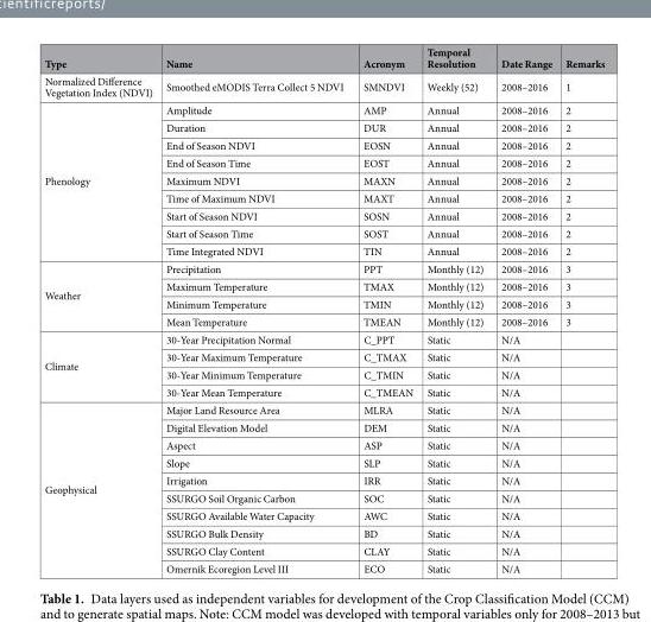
<table><thead><tr><td>Type</td><td>Name</td><td>Acronym</td><td>Temporal Resolution</td><td>Date Range</td><td>Remarks</td></tr></thead><tbody><tr><td>Normalized Difference Vegetation Index (NDVI)</td><td>Smoothed eMODIS Terra Collect 5 NDVI</td><td>SMNDVI</td><td>Weekly (52)</td><td>2008–2016</td><td>1</td></tr><tr><td rowspan="9">Phenology</td><td>Amplitude</td><td>AMP</td><td>Annual</td><td>2008–2016</td><td>2</td></tr><tr><td>Duration</td><td>DUR</td><td>Annual</td><td>2008–2016</td><td>2</td></tr><tr><td>End of Season NDVI</td><td>EOSN</td><td>Annual</td><td>2008–2016</td><td>2</td></tr><tr><td>End of Season Time</td><td>EOST</td><td>Annual</td><td>2008–2016</td><td>2</td></tr><tr><td>Maximum NDVI</td><td>MAXN</td><td>Annual</td><td>2008–2016</td><td>2</td></tr><tr><td>Time of Maximum NDVI</td><td>MAXT</td><td>Annual</td><td>2008–2016</td><td>2</td></tr><tr><td>Start of Season NDVI</td><td>SOSN</td><td>Annual</td><td>2008–2016</td><td>2</td></tr><tr><td>Start of Season Time</td><td>SOST</td><td>Annual</td><td>2008–2016</td><td>2</td></tr><tr><td>Time Integrated NDVI</td><td>TIN</td><td>Annual</td><td>2008–2016</td><td>2</td></tr><tr><td rowspan="4">Weather</td><td>Precipitation</td><td>PPT</td><td>Monthly (12)</td><td>2008–2016</td><td>3</td></tr><tr><td>Maximum Temperature</td><td>TMAX</td><td>Monthly (12)</td><td>2008–2016</td><td>3</td></tr><tr><td>Minimum Temperature</td><td>TMIN</td><td>Monthly (12)</td><td>2008–2016</td><td>3</td></tr><tr><td>Mean Temperature</td><td>TMEAN</td><td>Monthly (12)</td><td>2008–2016</td><td>3</td></tr><tr><td rowspan="4">Climate</td><td>30-Year Precipitation Normal</td><td>C_PPT</td><td>Static</td><td>N/A</td><td></td></tr><tr><td>30-Year Maximum Temperature</td><td>C_TMAX</td><td>Static</td><td>N/A</td><td></td></tr><tr><td>30-Year Minimum Temperature</td><td>C_TMIN</td><td>Static</td><td>N/A</td><td></td></tr><tr><td>30-Year Mean Temperature</td><td>C_TMEAN</td><td>Static</td><td>N/A</td><td></td></tr><tr><td rowspan="10">Geophysical</td><td>Major Land Resource Area</td><td>MLRA</td><td>Static</td><td>N/A</td><td></td></tr><tr><td>Digital Elevation Model</td><td>DEM</td><td>Static</td><td>N/A</td><td></td></tr><tr><td>Aspect</td><td>ASP</td><td>Static</td><td>N/A</td><td></td></tr><tr><td>Slope</td><td>SLP</td><td>Static</td><td>N/A</td><td></td></tr><tr><td>Irrigation</td><td>IRR</td><td>Static</td><td>N/A</td><td></td></tr><tr><td>SSURGO Soil Organic Carbon</td><td>SOC</td><td>Static</td><td>N/A</td><td></td></tr><tr><td>SSURGO Available Water Capacity</td><td>AWC</td><td>Static</td><td>N/A</td><td></td></tr><tr><td>SSURGO Bulk Density</td><td>BD</td><td>Static</td><td>N/A</td><td></td></tr><tr><td>SSURGO Clay Content</td><td>CLAY</td><td>Static</td><td>N/A</td><td></td></tr><tr><td>Omernik Ecoregion Level III</td><td>ECO</td><td>Static</td><td>N/A</td><td></td></tr></tbody></table>